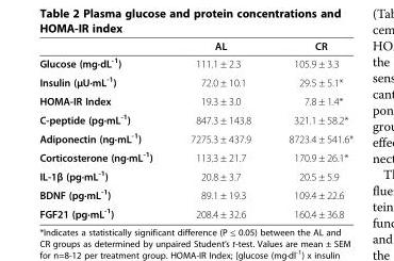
<table><thead><tr><td></td><td>AL</td><td>CR</td></tr></thead><tbody><tr><td>Glucose (mg·dL<sup>-1</sup>)</td><td>111.1 ± 2.3</td><td>105.9 ± 3.3</td></tr><tr><td>Insulin (μU·mL<sup>-1</sup>)</td><td>72.0 ± 10.1</td><td>29.5 ± 5.1*</td></tr><tr><td>HOMA-IR Index</td><td>19.3 ± 3.0</td><td>7.8 ± 1.4*</td></tr><tr><td>C-peptide (pg·mL<sup>-1</sup>)</td><td>847.3 ± 143.8</td><td>321.1 ± 58.2*</td></tr><tr><td>Adiponectin (ng·mL<sup>-1</sup>)</td><td>7275.3 ± 437.9</td><td>8723.4 ± 541.6*</td></tr><tr><td>Corticosterone (ng·mL<sup>-1</sup>)</td><td>113.3 ± 21.7</td><td>170.9 ± 26.1*</td></tr><tr><td>IL-1β (pg·mL<sup>-1</sup>)</td><td>20.8 ± 3.7</td><td>20.5 ± 5.9</td></tr><tr><td>BDNF (pg·mL<sup>-1</sup>)</td><td>89.1 ± 19.3</td><td>109.4 ± 22.6</td></tr><tr><td>FGF21 (pg·mL<sup>-1</sup>)</td><td>208.4 ± 32.6</td><td>160.4 ± 36.8</td></tr></tbody></table>